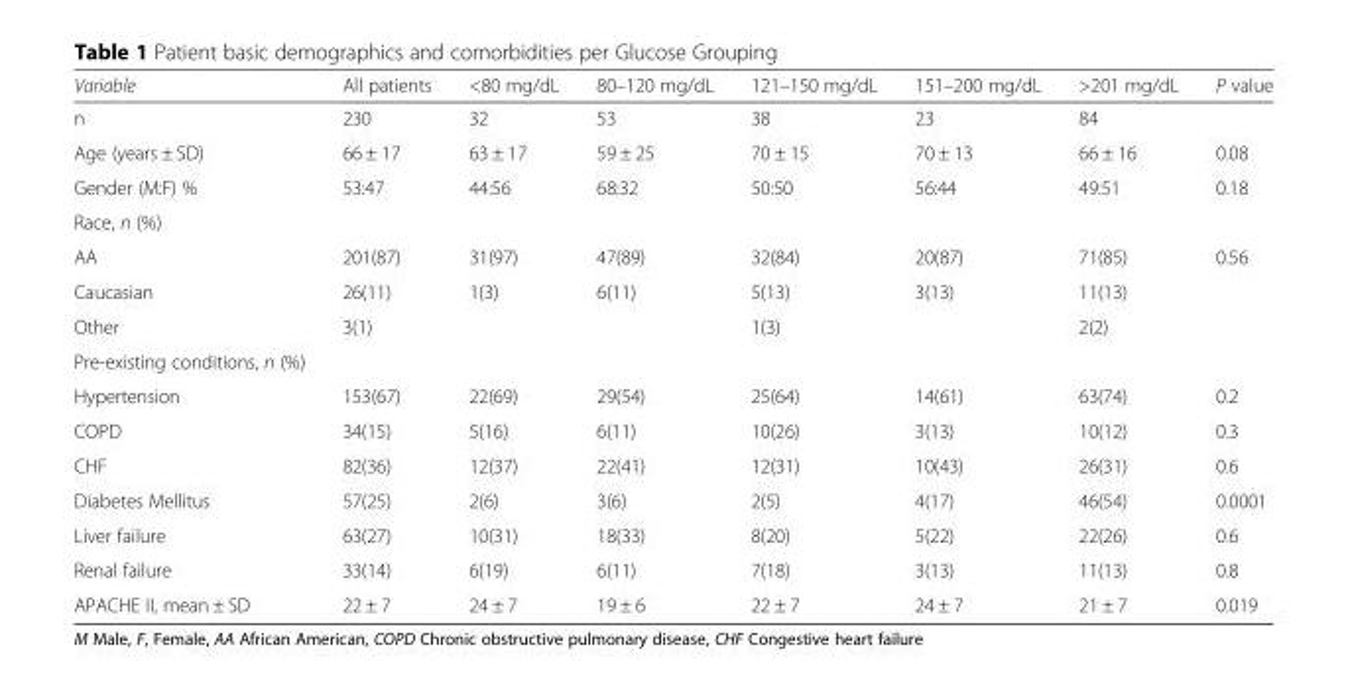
<table><thead><tr><td>Variable</td><td>All patients</td><td>&lt;80 mg/dL</td><td>80–120 mg/dL</td><td>121–150 mg/dL</td><td>151–200 mg/dL</td><td>&gt;201 mg/dL</td><td>P value</td></tr></thead><tbody><tr><td>n</td><td>230</td><td>32</td><td>53</td><td>38</td><td>23</td><td>84</td><td></td></tr><tr><td>Age (years ± SD)</td><td>66 ± 17</td><td>63 ± 17</td><td>59 ± 25</td><td>70 ± 15</td><td>70 ± 13</td><td>66 ± 16</td><td>0.08</td></tr><tr><td>Gender (M:F) %</td><td>53:47</td><td>44:56</td><td>68:32</td><td>50:50</td><td>56:44</td><td>49:51</td><td>0.18</td></tr><tr><td colspan="8">Race, n (%)</td></tr><tr><td>AA</td><td>201(87)</td><td>31(97)</td><td>47(89)</td><td>32(84)</td><td>20(87)</td><td>71(85)</td><td rowspan="3">0.56</td></tr><tr><td>Caucasian</td><td>26(11)</td><td>1(3)</td><td>6(11)</td><td>5(13)</td><td>3(13)</td><td>11(13)</td></tr><tr><td>Other</td><td>3(1)</td><td></td><td></td><td>1(3)</td><td></td><td>2(2)</td></tr><tr><td colspan="8">Pre-existing conditions, n (%)</td></tr><tr><td>Hypertension</td><td>153(67)</td><td>22(69)</td><td>29(54)</td><td>25(64)</td><td>14(61)</td><td>63(74)</td><td>0.2</td></tr><tr><td>COPD</td><td>34(15)</td><td>5(16)</td><td>6(11)</td><td>10(26)</td><td>3(13)</td><td>10(12)</td><td>0.3</td></tr><tr><td>CHF</td><td>82(36)</td><td>12(37)</td><td>22(41)</td><td>12(31)</td><td>10(43)</td><td>26(31)</td><td>0.6</td></tr><tr><td>Diabetes Mellitus</td><td>57(25)</td><td>2(6)</td><td>3(6)</td><td>2(5)</td><td>4(17)</td><td>46(54)</td><td>0.0001</td></tr><tr><td>Liver failure</td><td>63(27)</td><td>10(31)</td><td>18(33)</td><td>8(20)</td><td>5(22)</td><td>22(26)</td><td>0.6</td></tr><tr><td>Renal failure</td><td>33(14)</td><td>6(19)</td><td>6(11)</td><td>7(18)</td><td>3(13)</td><td>11(13)</td><td>0.8</td></tr><tr><td>APACHE II, mean ± SD</td><td>22 ± 7</td><td>24 ± 7</td><td>19 ± 6</td><td>22 ± 7</td><td>24 ± 7</td><td>21 ± 7</td><td>0.019</td></tr></tbody></table>